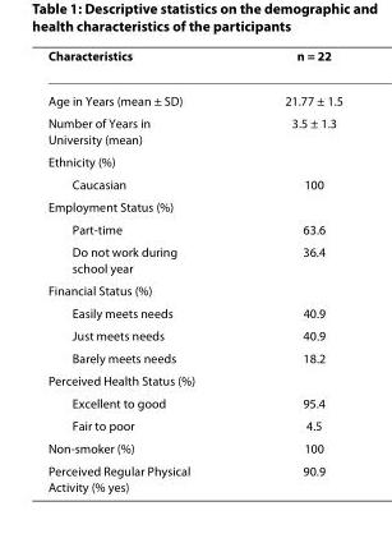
<table><thead><tr><td>Characteristics</td><td>n = 22</td></tr></thead><tbody><tr><td>Age in Years (mean ± SD)</td><td>21.77 ± 1.5</td></tr><tr><td>Number of Years in University (mean)</td><td>3.5 ± 1.3</td></tr><tr><td colspan="2">Ethnicity (%)</td></tr><tr><td>Caucasian</td><td>100</td></tr><tr><td colspan="2">Employment Status (%)</td></tr><tr><td>Part-time</td><td>63.6</td></tr><tr><td>Do not work during school year</td><td>36.4</td></tr><tr><td colspan="2">Financial Status (%)</td></tr><tr><td>Easily meets needs</td><td>40.9</td></tr><tr><td>Just meets needs</td><td>40.9</td></tr><tr><td>Barely meets needs</td><td>18.2</td></tr><tr><td colspan="2">Perceived Health Status (%)</td></tr><tr><td>Excellent to good</td><td>95.4</td></tr><tr><td>Fair to poor</td><td>4.5</td></tr><tr><td>Non-smoker (%)</td><td>100</td></tr><tr><td>Perceived Regular Physical Activity (% yes)</td><td>90.9</td></tr></tbody></table>